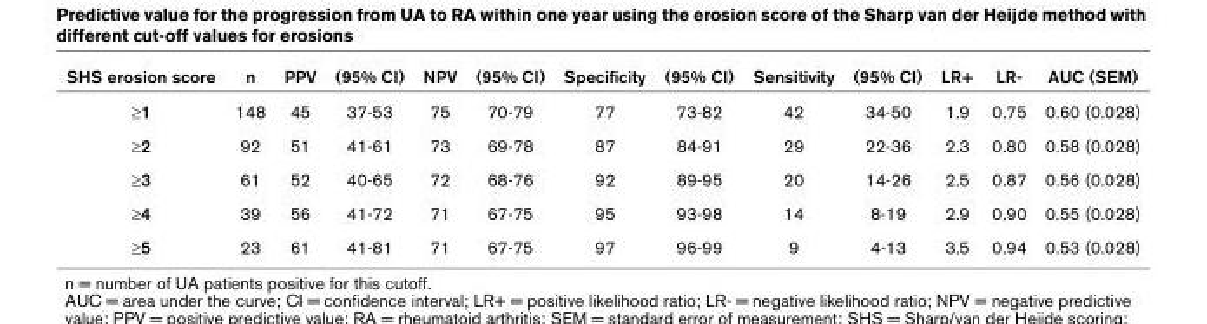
<table><thead><tr><td>SHS erosion score</td><td>n</td><td>PPV</td><td>(95% CI)</td><td>NPV</td><td>(95% CI)</td><td>Specificity</td><td>(95% CI)</td><td>Sensitivity</td><td>(95% CI)</td><td>LR+</td><td>LR-</td><td>AUC (SEM)</td></tr></thead><tbody><tr><td>≥1</td><td>148</td><td>45</td><td>37-53</td><td>75</td><td>70-79</td><td>77</td><td>73-82</td><td>42</td><td>34-50</td><td>1.9</td><td>0.75</td><td>0.60 (0.028)</td></tr><tr><td>≥2</td><td>92</td><td>51</td><td>41-61</td><td>73</td><td>69-78</td><td>87</td><td>84-91</td><td>29</td><td>22-36</td><td>2.3</td><td>0.80</td><td>0.58 (0.028)</td></tr><tr><td>≥3</td><td>61</td><td>52</td><td>40-65</td><td>72</td><td>68-76</td><td>92</td><td>89-95</td><td>20</td><td>14-26</td><td>2.5</td><td>0.87</td><td>0.56 (0.028)</td></tr><tr><td>≥4</td><td>39</td><td>56</td><td>41-72</td><td>71</td><td>67-75</td><td>95</td><td>93-98</td><td>14</td><td>8-19</td><td>2.9</td><td>0.90</td><td>0.55 (0.028)</td></tr><tr><td>≥5</td><td>23</td><td>61</td><td>41-81</td><td>71</td><td>67-75</td><td>97</td><td>96-99</td><td>9</td><td>4-13</td><td>3.5</td><td>0.94</td><td>0.53 (0.028)</td></tr></tbody></table>